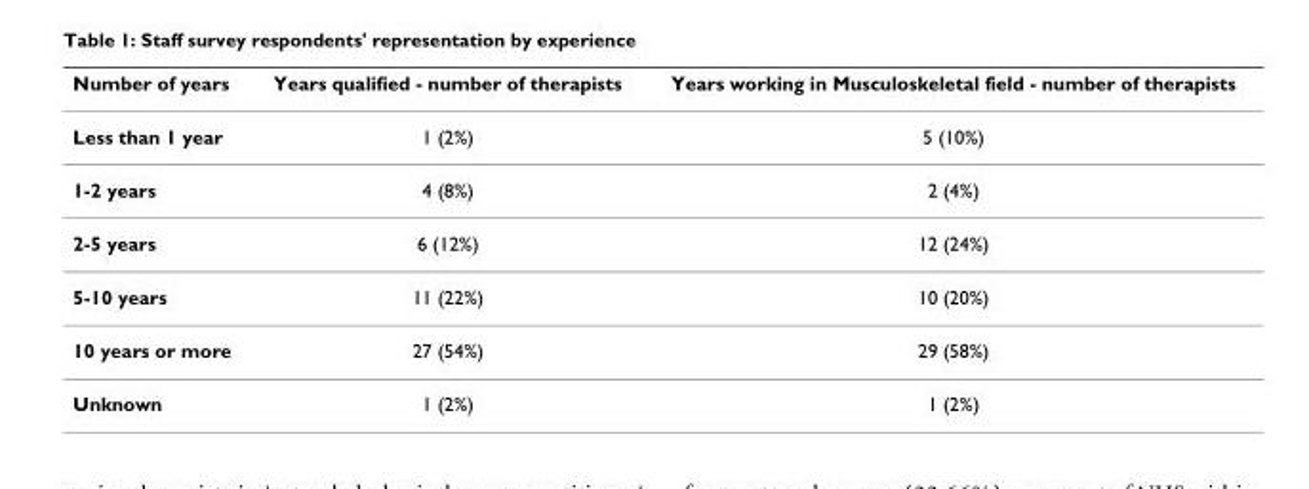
<table><thead><tr><td>Number of years</td><td>Years qualified - number of therapists</td><td>Years working in Musculoskeletal field - number of therapists</td></tr></thead><tbody><tr><td>Less than 1 year</td><td>1 (2%)</td><td>5 (10%)</td></tr><tr><td>1-2 years</td><td>4 (8%)</td><td>2 (4%)</td></tr><tr><td>2-5 years</td><td>6 (12%)</td><td>12 (24%)</td></tr><tr><td>5-10 years</td><td>11 (22%)</td><td>10 (20%)</td></tr><tr><td>10 years or more</td><td>27 (54%)</td><td>29 (58%)</td></tr><tr><td>Unknown</td><td>1 (2%)</td><td>1 (2%)</td></tr></tbody></table>